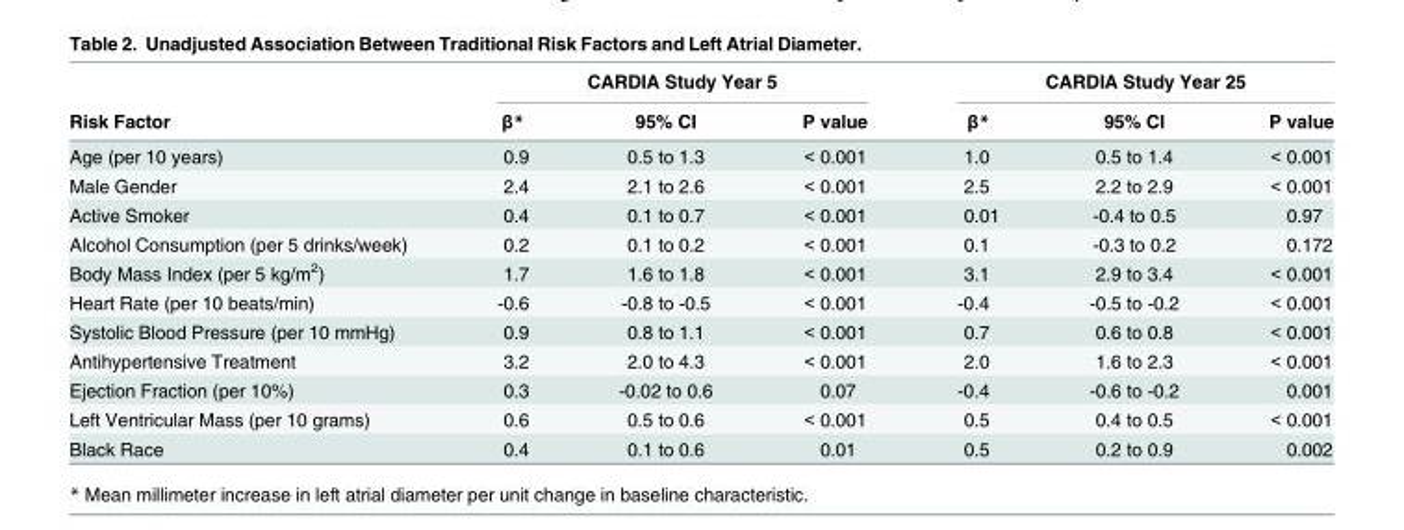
<table><thead><tr><td rowspan="2">Risk Factor</td><td colspan="3">CARDIA Study Year 5</td><td colspan="3">CARDIA Study Year 25</td></tr><tr><td>β*</td><td>95% CI</td><td>P value</td><td>β*</td><td>95% CI</td><td>P value</td></tr></thead><tbody><tr><td>Age (per 10 years)</td><td>0.9</td><td>0.5 to 1.3</td><td>&lt; 0.001</td><td>1.0</td><td>0.5 to 1.4</td><td>&lt; 0.001</td></tr><tr><td>Male Gender</td><td>2.4</td><td>2.1 to 2.6</td><td>&lt; 0.001</td><td>2.5</td><td>2.2 to 2.9</td><td>&lt; 0.001</td></tr><tr><td>Active Smoker</td><td>0.4</td><td>0.1 to 0.7</td><td>&lt; 0.001</td><td>0.01</td><td>-0.4 to 0.5</td><td>0.97</td></tr><tr><td>Alcohol Consumption (per 5 drinks/week)</td><td>0.2</td><td>0.1 to 0.2</td><td>&lt; 0.001</td><td>0.1</td><td>-0.3 to 0.2</td><td>0.172</td></tr><tr><td>Body Mass Index (per 5 kg/m<sup>2</sup>)</td><td>1.7</td><td>1.6 to 1.8</td><td>&lt; 0.001</td><td>3.1</td><td>2.9 to 3.4</td><td>&lt; 0.001</td></tr><tr><td>Heart Rate (per 10 beats/min)</td><td>-0.6</td><td>-0.8 to -0.5</td><td>&lt; 0.001</td><td>-0.4</td><td>-0.5 to -0.2</td><td>&lt; 0.001</td></tr><tr><td>Systolic Blood Pressure (per 10 mmHg)</td><td>0.9</td><td>0.8 to 1.1</td><td>&lt; 0.001</td><td>0.7</td><td>0.6 to 0.8</td><td>&lt; 0.001</td></tr><tr><td>Antihypertensive Treatment</td><td>3.2</td><td>2.0 to 4.3</td><td>&lt; 0.001</td><td>2.0</td><td>1.6 to 2.3</td><td>&lt; 0.001</td></tr><tr><td>Ejection Fraction (per 10%)</td><td>0.3</td><td>-0.02 to 0.6</td><td>0.07</td><td>-0.4</td><td>-0.6 to -0.2</td><td>0.001</td></tr><tr><td>Left Ventricular Mass (per 10 grams)</td><td>0.6</td><td>0.5 to 0.6</td><td>&lt; 0.001</td><td>0.5</td><td>0.4 to 0.5</td><td>&lt; 0.001</td></tr><tr><td>Black Race</td><td>0.4</td><td>0.1 to 0.6</td><td>0.01</td><td>0.5</td><td>0.2 to 0.9</td><td>0.002</td></tr></tbody></table>